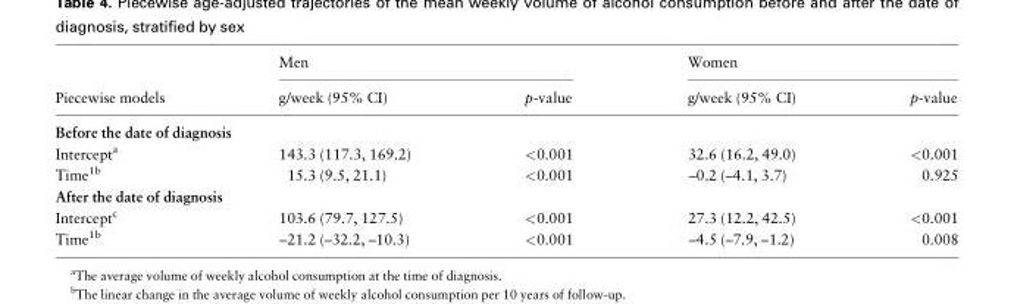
<table><thead><tr><td rowspan="2">Piecewise models</td><td colspan="2">Men</td><td colspan="2">Women</td></tr><tr><td>g/week (95% CI)</td><td>p-value</td><td>g/week (95% CI)</td><td>p-value</td></tr></thead><tbody><tr><td colspan="5">Before the date of diagnosis</td></tr><tr><td>Intercept<sup>a</sup></td><td>143.3 (117.3, 169.2)</td><td>&lt;0.001</td><td>32.6 (16.2, 49.0)</td><td>&lt;0.001</td></tr><tr><td>Time<sup>1b</sup></td><td>15.3 (9.5, 21.1)</td><td>&lt;0.001</td><td>–0.2 (–4.1, 3.7)</td><td>0.925</td></tr><tr><td colspan="5">After the date of diagnosis</td></tr><tr><td>Intercept<sup>c</sup></td><td>103.6 (79.7, 127.5)</td><td>&lt;0.001</td><td>27.3 (12.2, 42.5)</td><td>&lt;0.001</td></tr><tr><td>Time<sup>1b</sup></td><td>–21.2 (–32.2, –10.3)</td><td>&lt;0.001</td><td>–4.5 (–7.9, –1.2)</td><td>0.008</td></tr></tbody></table>